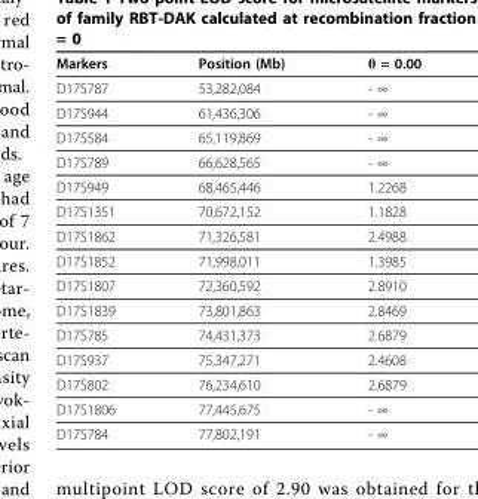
<table><thead><tr><td>Markers</td><td>Position (Mb)</td><td>θ = 0.00</td></tr></thead><tbody><tr><td>D17S787</td><td>53,282,084</td><td>- ∞</td></tr><tr><td>D17S944</td><td>61,436,306</td><td>- ∞</td></tr><tr><td>D17S584</td><td>65,119,869</td><td>- ∞</td></tr><tr><td>D17S789</td><td>66,628,565</td><td>- ∞</td></tr><tr><td>D17S949</td><td>68,465,446</td><td>1.2268</td></tr><tr><td>D17S1351</td><td>70,672,152</td><td>1.1828</td></tr><tr><td>D17S1862</td><td>71,326,581</td><td>2.4988</td></tr><tr><td>D17S1852</td><td>71,998,011</td><td>1.3985</td></tr><tr><td>D17S1807</td><td>72,360,592</td><td>2.8910</td></tr><tr><td>D17S1839</td><td>73,801,863</td><td>2.8469</td></tr><tr><td>D17S785</td><td>74,431,373</td><td>2.6879</td></tr><tr><td>D17S937</td><td>75,347,271</td><td>2.4608</td></tr><tr><td>D17S802</td><td>76,234,610</td><td>2.6879</td></tr><tr><td>D17S1806</td><td>77,445,675</td><td>- ∞</td></tr><tr><td>D17S784</td><td>77,802,191</td><td>- ∞</td></tr></tbody></table>